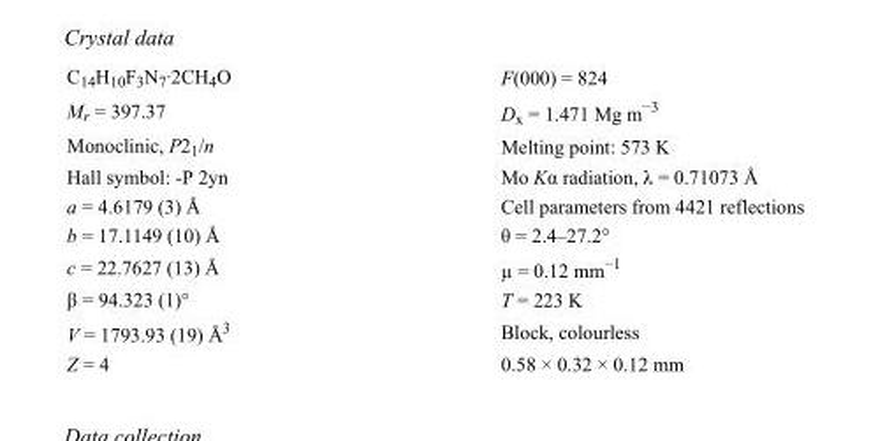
<table><tbody><tr><td>C<sub>14</sub>H<sub>10</sub>F<sub>3</sub>N<sub>7</sub>·2CH<sub>4</sub>O</td><td>F(000) = 824</td></tr><tr><td>M<sub>r</sub> = 397.37</td><td>D<sub>x</sub> = 1.471 Mg m<sup>−3</sup></td></tr><tr><td>Monoclinic, P2<sub>1</sub>/n</td><td>Melting point: 573 K</td></tr><tr><td>Hall symbol: -P 2yn</td><td>Mo Kα radiation, λ = 0.71073 Å</td></tr><tr><td>a = 4.6179 (3) Å</td><td>Cell parameters from 4421 reflections</td></tr><tr><td>b = 17.1149 (10) Å</td><td>θ = 2.4–27.2°</td></tr><tr><td>c = 22.7627 (13) Å</td><td>µ = 0.12 mm<sup>−1</sup></td></tr><tr><td>β = 94.323 (1)°</td><td>T = 223 K</td></tr><tr><td>V = 1793.93 (19) Å<sup>3</sup></td><td>Block, colourless</td></tr><tr><td>Z = 4</td><td>0.58 × 0.32 × 0.12 mm</td></tr></tbody></table>